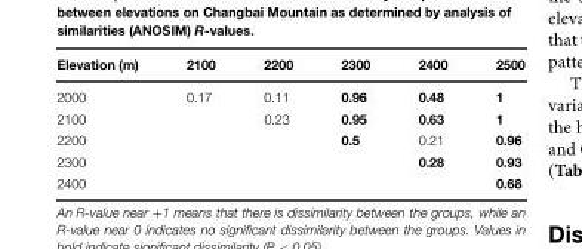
<table><thead><tr><td>Elevation (m)</td><td>2100</td><td>2200</td><td>2300</td><td>2400</td><td>2500</td></tr></thead><tbody><tr><td>2000</td><td>0.17</td><td>0.11</td><td>0.96</td><td>0.48</td><td>1</td></tr><tr><td>2100</td><td></td><td>0.23</td><td>0.95</td><td>0.63</td><td>1</td></tr><tr><td>2200</td><td></td><td></td><td>0.5</td><td>0.21</td><td>0.96</td></tr><tr><td>2300</td><td></td><td></td><td></td><td>0.28</td><td>0.93</td></tr><tr><td>2400</td><td></td><td></td><td></td><td></td><td>0.68</td></tr></tbody></table>